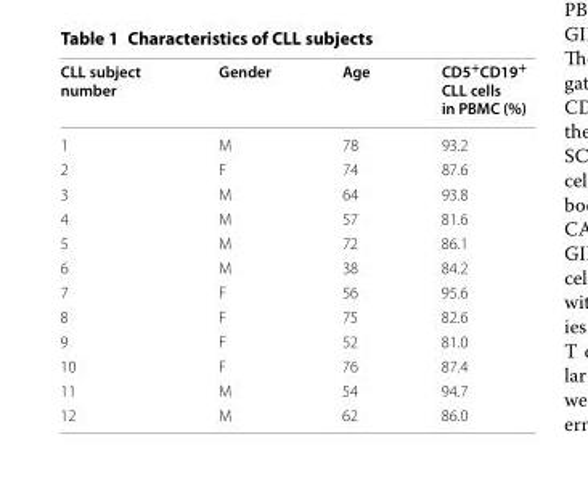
<table><thead><tr><td>CLL subject number</td><td>Gender</td><td>Age</td><td>CD5<sup>+</sup>CD19<sup>+</sup> CLL cells in PBMC (%)</td></tr></thead><tbody><tr><td>1</td><td>M</td><td>78</td><td>93.2</td></tr><tr><td>2</td><td>F</td><td>74</td><td>87.6</td></tr><tr><td>3</td><td>M</td><td>64</td><td>93.8</td></tr><tr><td>4</td><td>M</td><td>57</td><td>81.6</td></tr><tr><td>5</td><td>M</td><td>72</td><td>86.1</td></tr><tr><td>6</td><td>M</td><td>38</td><td>84.2</td></tr><tr><td>7</td><td>F</td><td>56</td><td>95.6</td></tr><tr><td>8</td><td>F</td><td>75</td><td>82.6</td></tr><tr><td>9</td><td>F</td><td>52</td><td>81.0</td></tr><tr><td>10</td><td>F</td><td>76</td><td>87.4</td></tr><tr><td>11</td><td>M</td><td>54</td><td>94.7</td></tr><tr><td>12</td><td>M</td><td>62</td><td>86.0</td></tr></tbody></table>